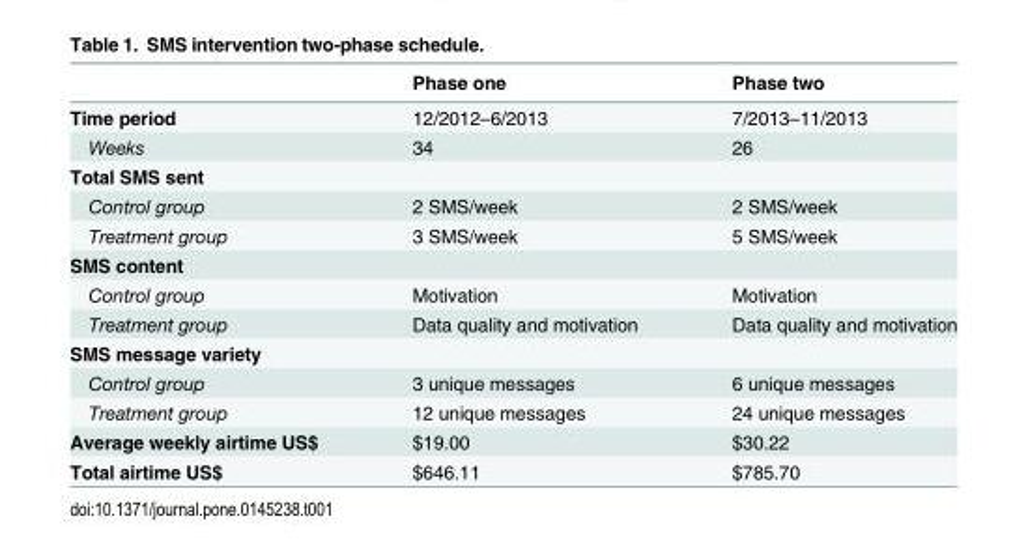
<table><thead><tr><td></td><td>Phase one</td><td>Phase two</td></tr></thead><tbody><tr><td>Time period</td><td>12/2012–6/2013</td><td>7/2013–11/2013</td></tr><tr><td>Weeks</td><td>34</td><td>26</td></tr><tr><td colspan="3">Total SMS sent</td></tr><tr><td>Control group</td><td>2 SMS/week</td><td>2 SMS/week</td></tr><tr><td>Treatment group</td><td>3 SMS/week</td><td>5 SMS/week</td></tr><tr><td colspan="3">SMS content</td></tr><tr><td>Control group</td><td>Motivation</td><td>Motivation</td></tr><tr><td>Treatment group</td><td>Data quality and motivation</td><td>Data quality and motivation</td></tr><tr><td colspan="3">SMS message variety</td></tr><tr><td>Control group</td><td>3 unique messages</td><td>6 unique messages</td></tr><tr><td>Treatment group</td><td>12 unique messages</td><td>24 unique messages</td></tr><tr><td>Average weekly airtime US$</td><td>$19.00</td><td>$30.22</td></tr><tr><td>Total airtime US$</td><td>$646.11</td><td>$785.70</td></tr></tbody></table>